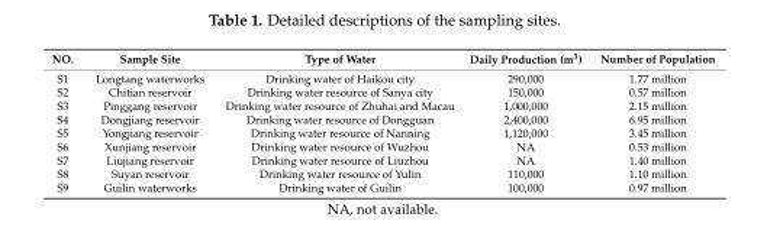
<table><thead><tr><td>NO.</td><td>Sample Site</td><td>Type of Water</td><td>Daily Production (m<sup>3</sup>)</td><td>Number of Population</td></tr></thead><tbody><tr><td>S1</td><td>Longtang waterworks</td><td>Drinking water of Haikou city</td><td>290,000</td><td>1.77 million</td></tr><tr><td>S2</td><td>Chitian reservoir</td><td>Drinking water resource of Sanya city</td><td>150,000</td><td>0.57 million</td></tr><tr><td>S3</td><td>Pinggang reservoir</td><td>Drinking water resource of Zhuhai and Macau</td><td>1,000,000</td><td>2.15 million</td></tr><tr><td>S4</td><td>Dongjiang reservoir</td><td>Drinking water resource of Dongguan</td><td>2,400,000</td><td>6.95 million</td></tr><tr><td>S5</td><td>Yongjiang reservoir</td><td>Drinking water resource of Nanning</td><td>1,120,000</td><td>3.45 million</td></tr><tr><td>S6</td><td>Xunjiang reservoir</td><td>Drinking water resource of Wuzhou</td><td>NA</td><td>0.53 million</td></tr><tr><td>S7</td><td>Liujiang reservoir</td><td>Drinking water resource of Liuzhou</td><td>NA</td><td>1.40 million</td></tr><tr><td>S8</td><td>Suyan reservoir</td><td>Drinking water resource of Yulin</td><td>110,000</td><td>1.10 million</td></tr><tr><td>S9</td><td>Guilin waterworks</td><td>Drinking water of Guilin</td><td>100,000</td><td>0.97 million</td></tr></tbody></table>